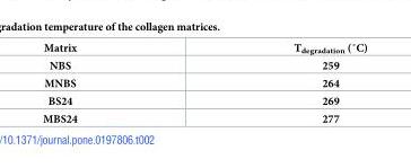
<table><thead><tr><td>Matrix</td><td>Tdegradation (˚C)</td></tr></thead><tbody><tr><td>NBS</td><td>259</td></tr><tr><td>MNBS</td><td>264</td></tr><tr><td>BS24</td><td>269</td></tr><tr><td>MBS24</td><td>277</td></tr></tbody></table>